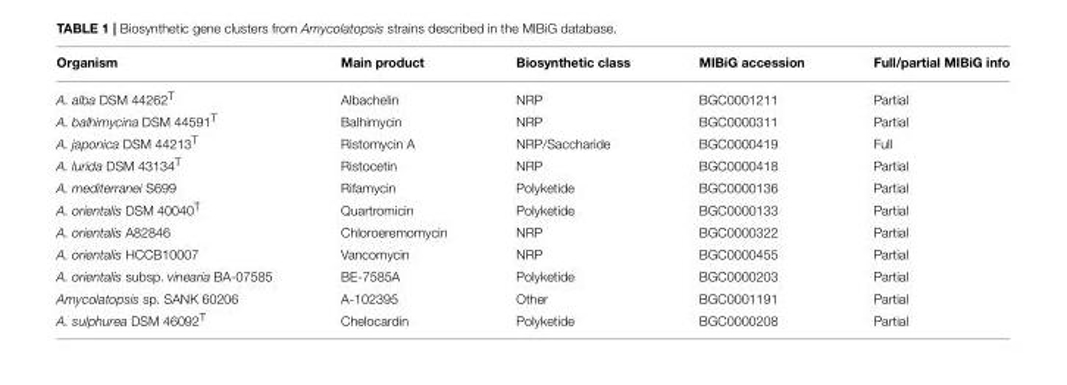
<table><thead><tr><td>Organism</td><td>Main product</td><td>Biosynthetic class</td><td>MIBiG accession</td><td>Full/partial MIBiG info</td></tr></thead><tbody><tr><td>A. alba DSM 44262<sup>T</sup></td><td>Albachelin</td><td>NRP</td><td>BGC0001211</td><td>Partial</td></tr><tr><td>A. balhimycina DSM 44591<sup>T</sup></td><td>Balhimycin</td><td>NRP</td><td>BGC0000311</td><td>Partial</td></tr><tr><td>A. japonica DSM 44213<sup>T</sup></td><td>Ristomycin A</td><td>NRP/Saccharide</td><td>BGC0000419</td><td>Full</td></tr><tr><td>A. lurida DSM 43134<sup>T</sup></td><td>Ristocetin</td><td>NRP</td><td>BGC0000418</td><td>Partial</td></tr><tr><td>A. mediterranei S699</td><td>Rifamycin</td><td>Polyketide</td><td>BGC0000136</td><td>Partial</td></tr><tr><td>A. orientalis DSM 40040<sup>T</sup></td><td>Quartromicin</td><td>Polyketide</td><td>BGC0000133</td><td>Partial</td></tr><tr><td>A. orientalis A82846</td><td>Chloroeremomycin</td><td>NRP</td><td>BGC0000322</td><td>Partial</td></tr><tr><td>A. orientalis HCCB10007</td><td>Vancomycin</td><td>NRP</td><td>BGC0000455</td><td>Partial</td></tr><tr><td>A. orientalis subsp. vinearia BA-07585</td><td>BE-7585A</td><td>Polyketide</td><td>BGC0000203</td><td>Partial</td></tr><tr><td>Amycolatopsis sp. SANK 60206</td><td>A-102395</td><td>Other</td><td>BGC0001191</td><td>Partial</td></tr><tr><td>A. sulphurea DSM 46092<sup>T</sup></td><td>Chelocardin</td><td>Polyketide</td><td>BGC0000208</td><td>Partial</td></tr></tbody></table>